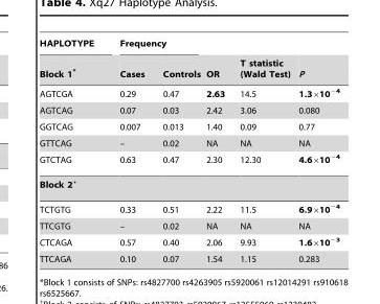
<table><thead><tr><td rowspan="2">HAPLOTYPE Block 1*</td><td colspan="2">Frequency</td><td rowspan="2">OR</td><td rowspan="2">T statistic (Wald Test)</td><td rowspan="2">P</td></tr><tr><td>Cases</td><td>Controls</td></tr></thead><tbody><tr><td>AGTCGA</td><td>0.29</td><td>0.47</td><td>2.63</td><td>14.5</td><td>1.3×10<sup>−4</sup></td></tr><tr><td>AGTCAG</td><td>0.07</td><td>0.03</td><td>2.42</td><td>3.06</td><td>0.080</td></tr><tr><td>GGTCAG</td><td>0.007</td><td>0.013</td><td>1.40</td><td>0.09</td><td>0.77</td></tr><tr><td>GTTCAG</td><td>–</td><td>0.02</td><td>NA</td><td>NA</td><td>NA</td></tr><tr><td>GTCTAG</td><td>0.63</td><td>0.47</td><td>2.30</td><td>12.30</td><td>4.6×10<sup>−4</sup></td></tr><tr><td colspan="6">Block 2+</td></tr><tr><td>TCTGTG</td><td>0.33</td><td>0.51</td><td>2.22</td><td>11.5</td><td>6.9×10<sup>−4</sup></td></tr><tr><td>TTCGTG</td><td>–</td><td>0.02</td><td>NA</td><td>NA</td><td>NA</td></tr><tr><td>CTCAGA</td><td>0.57</td><td>0.40</td><td>2.06</td><td>9.93</td><td>1.6×10<sup>−3</sup></td></tr><tr><td>TTCAGA</td><td>0.10</td><td>0.07</td><td>1.54</td><td>1.15</td><td>0.283</td></tr></tbody></table>